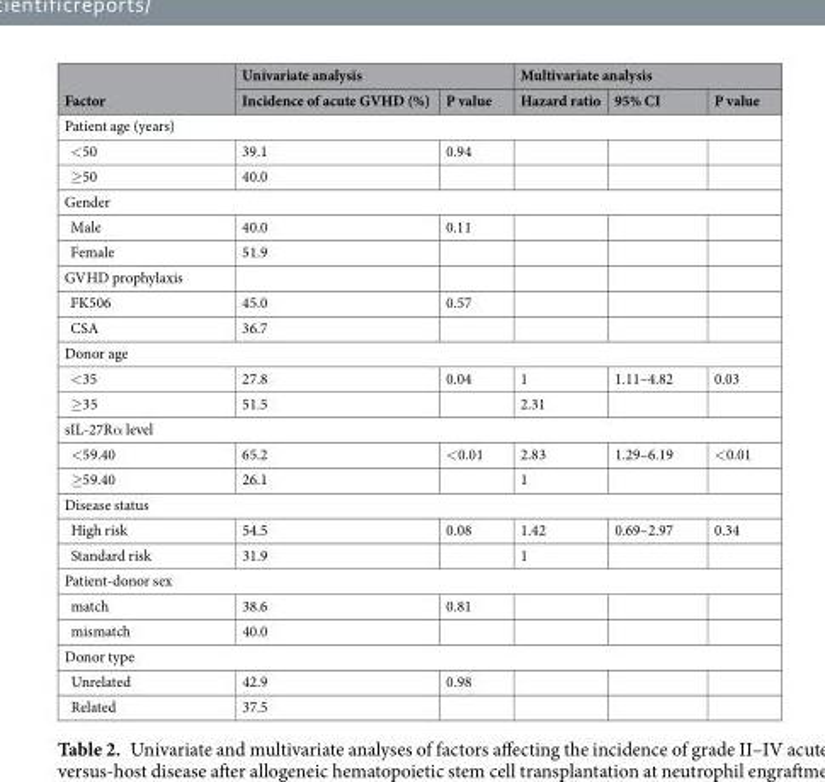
<table><thead><tr><td rowspan="2">Factor</td><td colspan="2">Univariate analysis</td><td colspan="3">Multivariate analysis</td></tr><tr><td>Incidence of acute GVHD (%)</td><td>P value</td><td>Hazard ratio</td><td>95% CI</td><td>P value</td></tr></thead><tbody><tr><td colspan="6">Patient age (years)</td></tr><tr><td>&lt;50</td><td>39.1</td><td>0.94</td><td></td><td></td><td></td></tr><tr><td>≥50</td><td>40.0</td><td></td><td></td><td></td><td></td></tr><tr><td colspan="6">Gender</td></tr><tr><td>Male</td><td>40.0</td><td>0.11</td><td></td><td></td><td></td></tr><tr><td>Female</td><td>51.9</td><td></td><td></td><td></td><td></td></tr><tr><td colspan="6">GVHD prophylaxis</td></tr><tr><td>FK506</td><td>45.0</td><td>0.57</td><td></td><td></td><td></td></tr><tr><td>CSA</td><td>36.7</td><td></td><td></td><td></td><td></td></tr><tr><td colspan="6">Donor age</td></tr><tr><td>&lt;35</td><td>27.8</td><td>0.04</td><td>1</td><td>1.11–4.82</td><td>0.03</td></tr><tr><td>≥35</td><td>51.5</td><td></td><td>2.31</td><td></td><td></td></tr><tr><td colspan="6">sIL-27Rα level</td></tr><tr><td>&lt;59.40</td><td>65.2</td><td>&lt;0.01</td><td>2.83</td><td>1.29–6.19</td><td>&lt;0.01</td></tr><tr><td>≥59.40</td><td>26.1</td><td></td><td>1</td><td></td><td></td></tr><tr><td colspan="6">Disease status</td></tr><tr><td>High risk</td><td>54.5</td><td>0.08</td><td>1.42</td><td>0.69–2.97</td><td>0.34</td></tr><tr><td>Standard risk</td><td>31.9</td><td></td><td>1</td><td></td><td></td></tr><tr><td colspan="6">Patient-donor sex</td></tr><tr><td>match</td><td>38.6</td><td>0.81</td><td></td><td></td><td></td></tr><tr><td>mismatch</td><td>40.0</td><td></td><td></td><td></td><td></td></tr><tr><td colspan="6">Donor type</td></tr><tr><td>Unrelated</td><td>42.9</td><td>0.98</td><td></td><td></td><td></td></tr><tr><td>Related</td><td>37.5</td><td></td><td></td><td></td><td></td></tr></tbody></table>